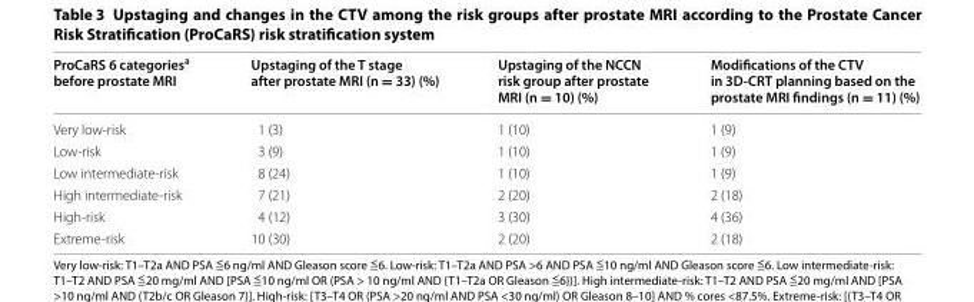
<table><thead><tr><td>ProCaRS 6 categories<sup>a</sup> before prostate MRI</td><td>Upstaging of the T stage after prostate MRI (n = 33) (%)</td><td>Upstaging of the NCCN risk group after prostate MRI (n = 10) (%)</td><td>Modifications of the CTV in 3D‑CRT planning based on the prostate MRI findings (n = 11) (%)</td></tr></thead><tbody><tr><td>Very low-risk</td><td>1 (3)</td><td>1 (10)</td><td>1 (9)</td></tr><tr><td>Low-risk</td><td>3 (9)</td><td>1 (10)</td><td>1 (9)</td></tr><tr><td>Low intermediate-risk</td><td>8 (24)</td><td>1 (10)</td><td>1 (9)</td></tr><tr><td>High intermediate-risk</td><td>7 (21)</td><td>2 (20)</td><td>2 (18)</td></tr><tr><td>High-risk</td><td>4 (12)</td><td>3 (30)</td><td>4 (36)</td></tr><tr><td>Extreme-risk</td><td>10 (30)</td><td>2 (20)</td><td>2 (18)</td></tr></tbody></table>